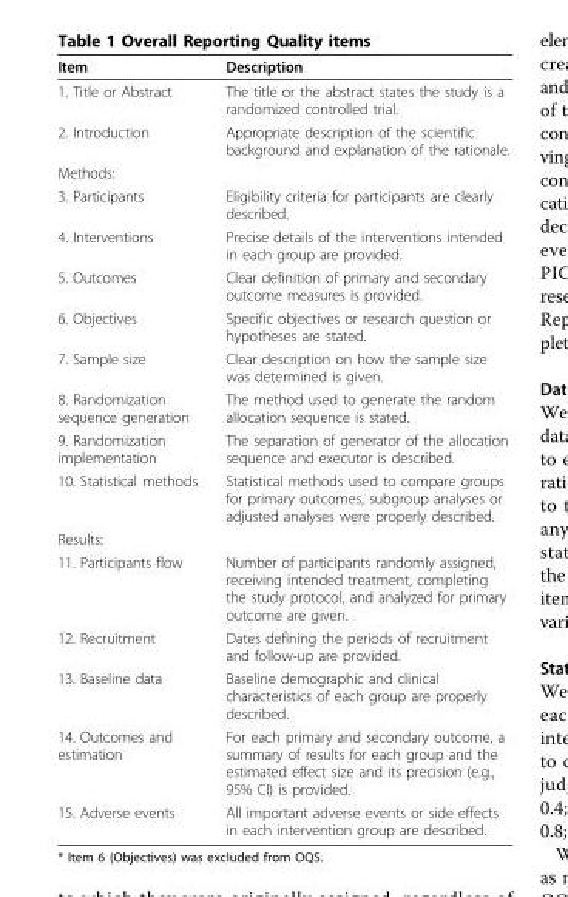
<table><thead><tr><td>Item</td><td>Description</td></tr></thead><tbody><tr><td>1. Title or Abstract</td><td>The title or the abstract states the study is a randomized controlled trial.</td></tr><tr><td>2. Introduction</td><td>Appropriate description of the scientific background and explanation of the rationale.</td></tr><tr><td colspan="2">Methods:</td></tr><tr><td>3. Participants</td><td>Eligibility criteria for participants are clearly described.</td></tr><tr><td>4. Interventions</td><td>Precise details of the interventions intended in each group are provided.</td></tr><tr><td>5. Outcomes</td><td>Clear definition of primary and secondary outcome measures is provided.</td></tr><tr><td>6. Objectives</td><td>Specific objectives or research question or hypotheses are stated.</td></tr><tr><td>7. Sample size</td><td>Clear description on how the sample size was determined is given.</td></tr><tr><td>8. Randomization sequence generation</td><td>The method used to generate the random allocation sequence is stated.</td></tr><tr><td>9. Randomization implementation</td><td>The separation of generator of the allocation sequence and executor is described.</td></tr><tr><td>10. Statistical methods</td><td>Statistical methods used to compare groups for primary outcomes, subgroup analyses or adjusted analyses were properly described.</td></tr><tr><td colspan="2">Results:</td></tr><tr><td>11. Participants flow</td><td>Number of participants randomly assigned, receiving intended treatment, completing the study protocol, and analyzed for primary outcome are given.</td></tr><tr><td>12. Recruitment</td><td>Dates defining the periods of recruitment and follow-up are provided.</td></tr><tr><td>13. Baseline data</td><td>Baseline demographic and clinical characteristics of each group are properly described.</td></tr><tr><td>14. Outcomes and estimation</td><td>For each primary and secondary outcome, a summary of results for each group and the estimated effect size and its precision (e.g., 95% CI) is provided.</td></tr><tr><td>15. Adverse events</td><td>All important adverse events or side effects in each intervention group are described.</td></tr></tbody></table>